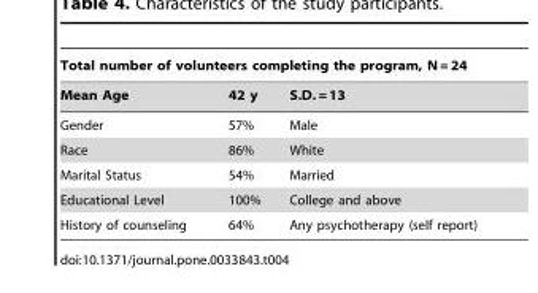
<table><thead><tr><td colspan="3">Total number of volunteers completing the program, N = 24</td></tr><tr><td>Mean Age</td><td>42 y</td><td>S.D. = 13</td></tr></thead><tbody><tr><td>Gender</td><td>57%</td><td>Male</td></tr><tr><td>Race</td><td>86%</td><td>White</td></tr><tr><td>Marital Status</td><td>54%</td><td>Married</td></tr><tr><td>Educational Level</td><td>100%</td><td>College and above</td></tr><tr><td>History of counseling</td><td>64%</td><td>Any psychotherapy (self report)</td></tr></tbody></table>